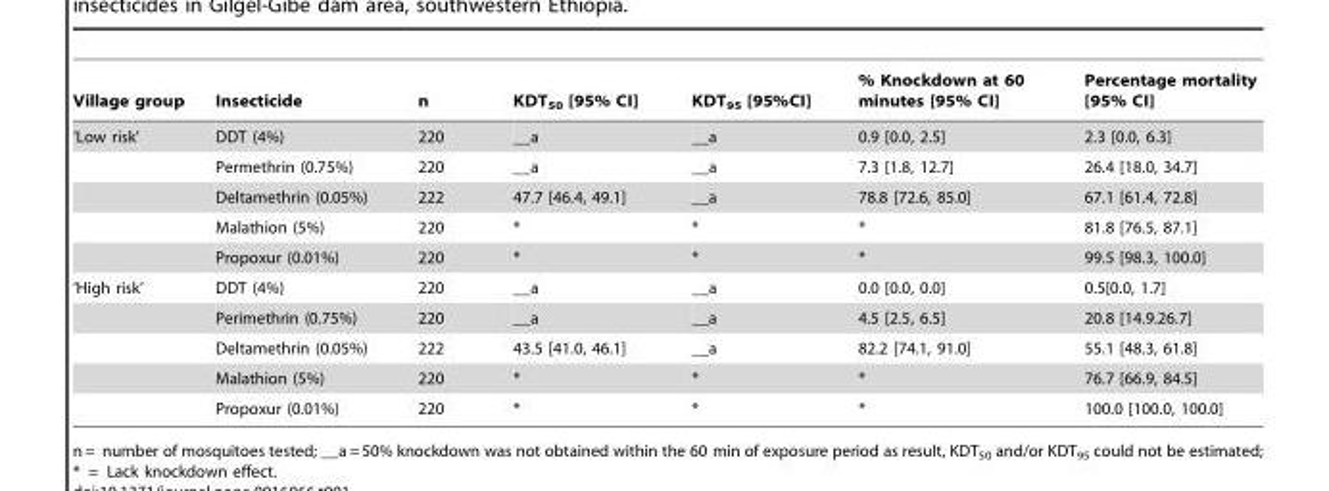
<table><thead><tr><td>Village group</td><td>Insecticide</td><td>n</td><td>KDT<sub>50</sub> [95% CI]</td><td>KDT<sub>95</sub> [95%CI]</td><td>% Knockdown at 60 minutes [95% CI]</td><td>Percentage mortality [95% CI]</td></tr></thead><tbody><tr><td rowspan="5">‘Low risk’</td><td>DDT (4%)</td><td>220</td><td>__a</td><td>__a</td><td>0.9 [0.0, 2.5]</td><td>2.3 [0.0, 6.3]</td></tr><tr><td>Permethrin (0.75%)</td><td>220</td><td>__a</td><td>__a</td><td>7.3 [1.8, 12.7]</td><td>26.4 [18.0, 34.7]</td></tr><tr><td>Deltamethrin (0.05%)</td><td>222</td><td>47.7 [46.4, 49.1]</td><td>__a</td><td>78.8 [72.6, 85.0]</td><td>67.1 [61.4, 72.8]</td></tr><tr><td>Malathion (5%)</td><td>220</td><td>*</td><td>*</td><td>*</td><td>81.8 [76.5, 87.1]</td></tr><tr><td>Propoxur (0.01%)</td><td>220</td><td>*</td><td>*</td><td>*</td><td>99.5 [98.3, 100.0]</td></tr><tr><td rowspan="5">‘High risk’</td><td>DDT (4%)</td><td>220</td><td>__a</td><td>__a</td><td>0.0 [0.0, 0.0]</td><td>0.5[0.0, 1.7]</td></tr><tr><td>Perimethrin (0.75%)</td><td>220</td><td>__a</td><td>__a</td><td>4.5 [2.5, 6.5]</td><td>20.8 [14.9.26.7]</td></tr><tr><td>Deltamethrin (0.05%)</td><td>222</td><td>43.5 [41.0, 46.1]</td><td>__a</td><td>82.2 [74.1, 91.0]</td><td>55.1 [48.3, 61.8]</td></tr><tr><td>Malathion (5%)</td><td>220</td><td>*</td><td>*</td><td>*</td><td>76.7 [66.9, 84.5]</td></tr><tr><td>Propoxur (0.01%)</td><td>220</td><td>*</td><td>*</td><td>*</td><td>100.0 [100.0, 100.0]</td></tr></tbody></table>